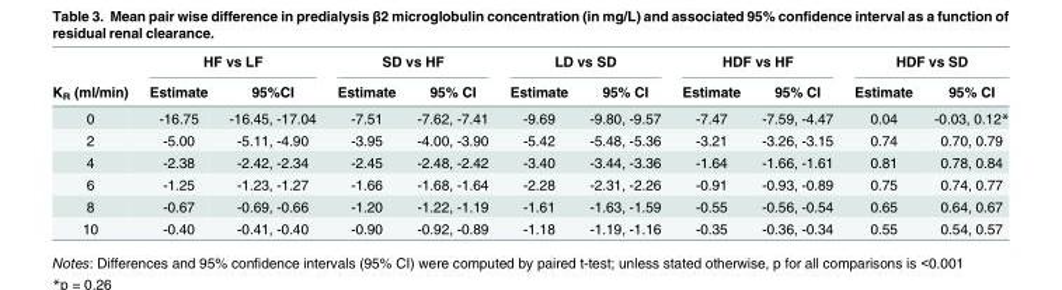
<table><thead><tr><td rowspan="2">K<sub>R</sub> (ml/min)</td><td colspan="2">HF vs LF</td><td colspan="2">SD vs HF</td><td colspan="2">LD vs SD</td><td colspan="2">HDF vs HF</td><td colspan="2">HDF vs SD</td></tr><tr><td>Estimate</td><td>95%CI</td><td>Estimate</td><td>95% CI</td><td>Estimate</td><td>95% CI</td><td>Estimate</td><td>95% CI</td><td>Estimate</td><td>95% CI</td></tr></thead><tbody><tr><td>0</td><td>-16.75</td><td>-16.45, -17.04</td><td>-7.51</td><td>-7.62, -7.41</td><td>-9.69</td><td>-9.80, -9.57</td><td>-7.47</td><td>-7.59, -4.47</td><td>0.04</td><td>-0.03, 0.12*</td></tr><tr><td>2</td><td>-5.00</td><td>-5.11, -4.90</td><td>-3.95</td><td>-4.00, -3.90</td><td>-5.42</td><td>-5.48, -5.36</td><td>-3.21</td><td>-3.26, -3.15</td><td>0.74</td><td>0.70, 0.79</td></tr><tr><td>4</td><td>-2.38</td><td>-2.42, -2.34</td><td>-2.45</td><td>-2.48, -2.42</td><td>-3.40</td><td>-3.44, -3.36</td><td>-1.64</td><td>-1.66, -1.61</td><td>0.81</td><td>0.78, 0.84</td></tr><tr><td>6</td><td>-1.25</td><td>-1.23, -1.27</td><td>-1.66</td><td>-1.68, -1.64</td><td>-2.28</td><td>-2.31, -2.26</td><td>-0.91</td><td>-0.93, -0.89</td><td>0.75</td><td>0.74, 0.77</td></tr><tr><td>8</td><td>-0.67</td><td>-0.69, -0.66</td><td>-1.20</td><td>-1.22, -1.19</td><td>-1.61</td><td>-1.63, -1.59</td><td>-0.55</td><td>-0.56, -0.54</td><td>0.65</td><td>0.64, 0.67</td></tr><tr><td>10</td><td>-0.40</td><td>-0.41, -0.40</td><td>-0.90</td><td>-0.92, -0.89</td><td>-1.18</td><td>-1.19, -1.16</td><td>-0.35</td><td>-0.36, -0.34</td><td>0.55</td><td>0.54, 0.57</td></tr></tbody></table>